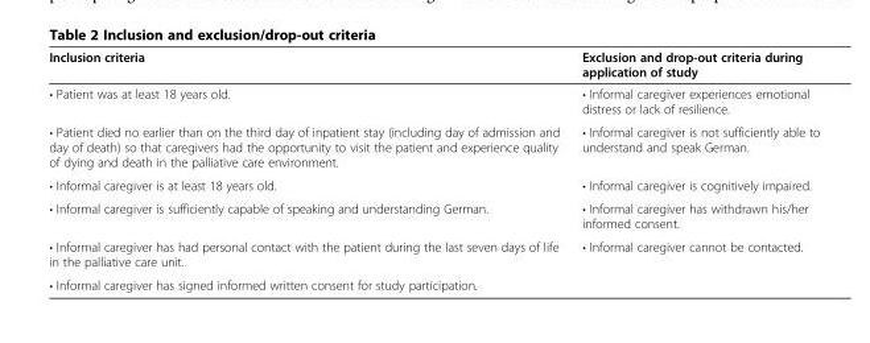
<table><thead><tr><td>Inclusion criteria</td><td>Exclusion and drop-out criteria during application of study</td></tr></thead><tbody><tr><td>• Patient was at least 18 years old.</td><td>• Informal caregiver experiences emotional distress or lack of resilience.</td></tr><tr><td>• Patient died no earlier than on the third day of inpatient stay (including day of admission and day of death) so that caregivers had the opportunity to visit the patient and experience quality of dying and death in the palliative care environment.</td><td>• Informal caregiver is not sufficiently able to understand and speak German.</td></tr><tr><td>• Informal caregiver is at least 18 years old.</td><td>• Informal caregiver is cognitively impaired.</td></tr><tr><td>• Informal caregiver is sufficiently capable of speaking and understanding German.</td><td>• Informal caregiver has withdrawn his/her informed consent.</td></tr><tr><td>• Informal caregiver has had personal contact with the patient during the last seven days of life in the palliative care unit.</td><td>• Informal caregiver cannot be contacted.</td></tr><tr><td>• Informal caregiver has signed informed written consent for study participation.</td><td></td></tr></tbody></table>